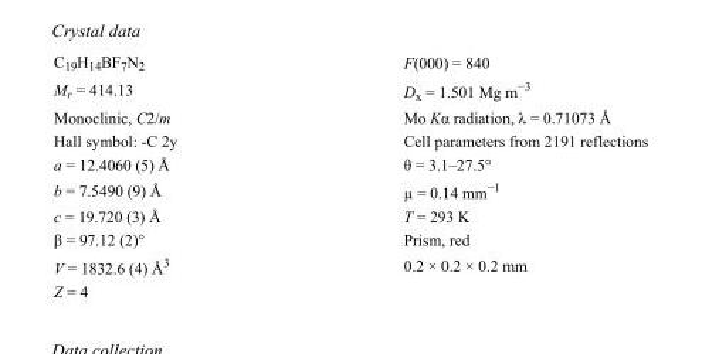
<table><tbody><tr><td>C<sub>19</sub>H<sub>14</sub>BF<sub>7</sub>N<sub>2</sub></td><td>F(000) = 840</td></tr><tr><td>M<sub>r</sub> = 414.13</td><td>D<sub>x</sub> = 1.501 Mg m<sup>−3</sup></td></tr><tr><td>Monoclinic, C2/m</td><td>Mo Kα radiation, λ = 0.71073 Å</td></tr><tr><td>Hall symbol: -C 2y</td><td>Cell parameters from 2191 reflections</td></tr><tr><td>a = 12.4060 (5) Å</td><td>θ = 3.1–27.5°</td></tr><tr><td>b = 7.5490 (9) Å</td><td>µ = 0.14 mm<sup>−1</sup></td></tr><tr><td>c = 19.720 (3) Å</td><td>T = 293 K</td></tr><tr><td>β = 97.12 (2)°</td><td>Prism, red</td></tr><tr><td>V = 1832.6 (4) Å<sup>3</sup></td><td>0.2 × 0.2 × 0.2 mm</td></tr><tr><td>Z = 4</td><td></td></tr></tbody></table>